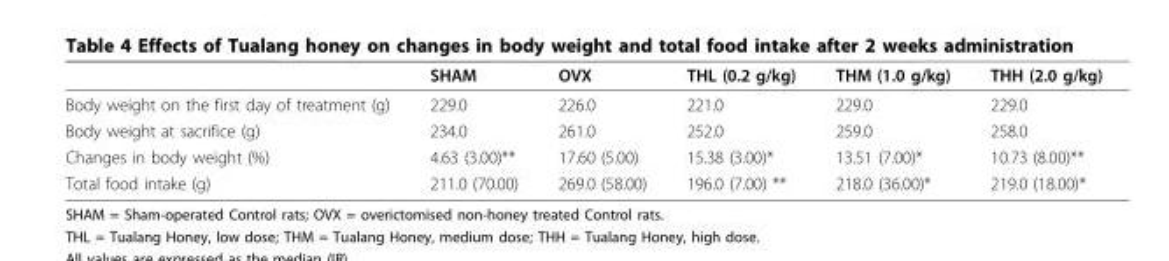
<table><thead><tr><td></td><td>SHAM</td><td>OVX</td><td>THL (0.2 g/kg)</td><td>THM (1.0 g/kg)</td><td>THH (2.0 g/kg)</td></tr></thead><tbody><tr><td>Body weight on the first day of treatment (g)</td><td>229.0</td><td>226.0</td><td>221.0</td><td>229.0</td><td>229.0</td></tr><tr><td>Body weight at sacrifice (g)</td><td>234.0</td><td>261.0</td><td>252.0</td><td>259.0</td><td>258.0</td></tr><tr><td>Changes in body weight (%)</td><td>4.63 (3.00)**</td><td>17.60 (5.00)</td><td>15.38 (3.00)*</td><td>13.51 (7.00)*</td><td>10.73 (8.00)**</td></tr><tr><td>Total food intake (g)</td><td>211.0 (70.00)</td><td>269.0 (58.00)</td><td>196.0 (7.00) **</td><td>218.0 (36.00)*</td><td>219.0 (18.00)*</td></tr></tbody></table>